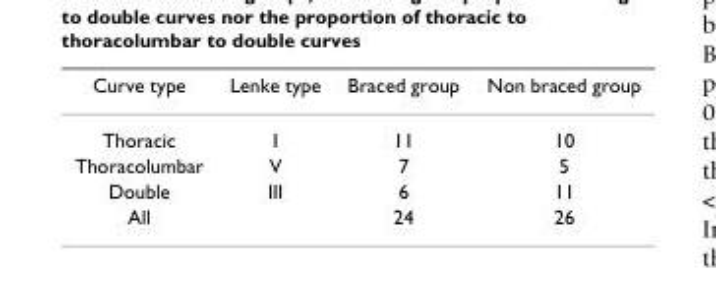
<table><thead><tr><td>Curve type</td><td>Lenke type</td><td>Braced group</td><td>Non braced group</td></tr></thead><tbody><tr><td>Thoracic</td><td>I</td><td>11</td><td>10</td></tr><tr><td>Thoracolumbar</td><td>V</td><td>7</td><td>5</td></tr><tr><td>Double</td><td>III</td><td>6</td><td>11</td></tr><tr><td>All</td><td></td><td>24</td><td>26</td></tr></tbody></table>